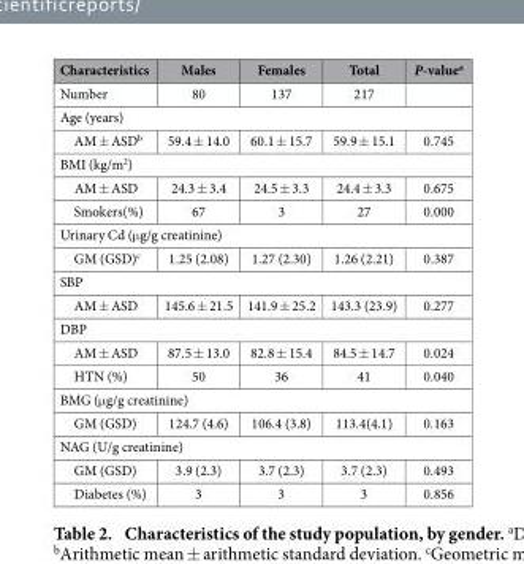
<table><thead><tr><td>Characteristics</td><td>Males</td><td>Females</td><td>Total</td><td>P-value<sup>a</sup></td></tr></thead><tbody><tr><td>Number</td><td>80</td><td>137</td><td>217</td><td></td></tr><tr><td colspan="5">Age (years)</td></tr><tr><td>AM ± ASD<sup>b</sup></td><td>59.4 ± 14.0</td><td>60.1 ± 15.7</td><td>59.9 ± 15.1</td><td>0.745</td></tr><tr><td colspan="5">BMI (kg/m<sup>2</sup>)</td></tr><tr><td>AM ± ASD</td><td>24.3 ± 3.4</td><td>24.5 ± 3.3</td><td>24.4 ± 3.3</td><td>0.675</td></tr><tr><td>Smokers(%)</td><td>67</td><td>3</td><td>27</td><td>0.000</td></tr><tr><td colspan="5">Urinary Cd (μ g/g creatinine)</td></tr><tr><td>GM (GSD)<sup>c</sup></td><td>1.25 (2.08)</td><td>1.27 (2.30)</td><td>1.26 (2.21)</td><td>0.387</td></tr><tr><td colspan="5">SBP</td></tr><tr><td>AM ± ASD</td><td>145.6 ± 21.5</td><td>141.9 ± 25.2</td><td>143.3 (23.9)</td><td>0.277</td></tr><tr><td colspan="5">DBP</td></tr><tr><td>AM ± ASD</td><td>87.5 ± 13.0</td><td>82.8 ± 15.4</td><td>84.5 ± 14.7</td><td>0.024</td></tr><tr><td>HTN (%)</td><td>50</td><td>36</td><td>41</td><td>0.040</td></tr><tr><td colspan="5">BMG (μ g/g creatinine)</td></tr><tr><td>GM (GSD)</td><td>124.7 (4.6)</td><td>106.4 (3.8)</td><td>113.4(4.1)</td><td>0.163</td></tr><tr><td colspan="5">NAG (U/g creatinine)</td></tr><tr><td>GM (GSD)</td><td>3.9 (2.3)</td><td>3.7 (2.3)</td><td>3.7 (2.3)</td><td>0.493</td></tr><tr><td>Diabetes (%)</td><td>3</td><td>3</td><td>3</td><td>0.856</td></tr></tbody></table>